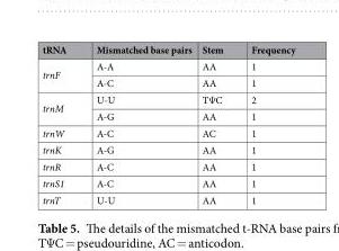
<table><thead><tr><td>tRNA</td><td>Mismatched base pairs</td><td>Stem</td><td>Frequency</td></tr></thead><tbody><tr><td rowspan="2">trnF</td><td>A-A</td><td>AA</td><td>1</td></tr><tr><td>A-C</td><td>AA</td><td>1</td></tr><tr><td rowspan="2">trnM</td><td>U-U</td><td>TΨC</td><td>2</td></tr><tr><td>A-G</td><td>AA</td><td>1</td></tr><tr><td>trnW</td><td>A-C</td><td>AC</td><td>1</td></tr><tr><td>trnK</td><td>A-G</td><td>AA</td><td>1</td></tr><tr><td>trnR</td><td>A-C</td><td>AA</td><td>1</td></tr><tr><td>trnS1</td><td>A-C</td><td>AA</td><td>1</td></tr><tr><td>trnT</td><td>U-U</td><td>AA</td><td>1</td></tr></tbody></table>